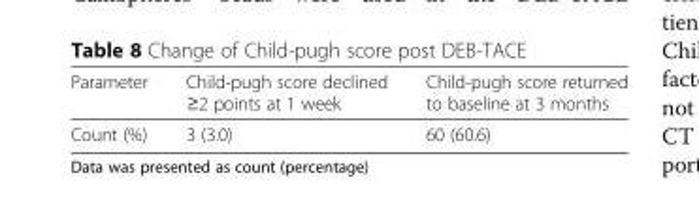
<table><thead><tr><td>Parameter</td><td>Child-pugh score declined ≥2 points at 1 week</td><td>Child-pugh score returned to baseline at 3 months</td></tr></thead><tbody><tr><td>Count (%)</td><td>3 (3.0)</td><td>60 (60.6)</td></tr></tbody></table>